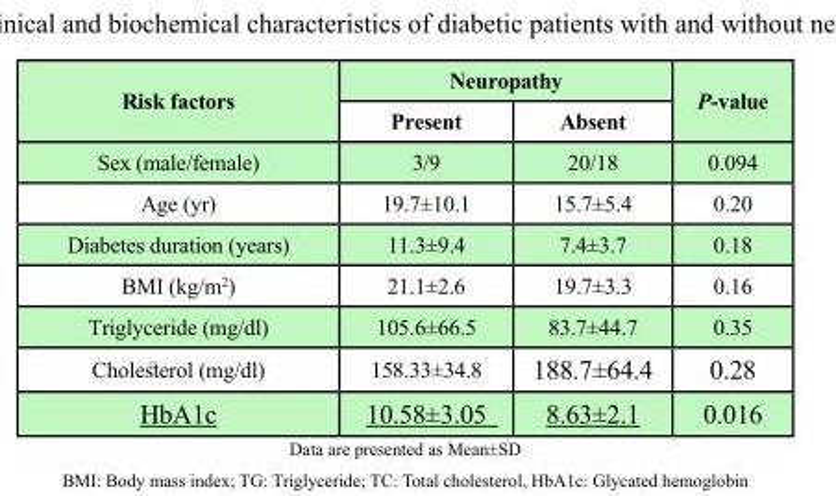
<table><thead><tr><td rowspan="2">Risk factors</td><td colspan="2">Neuropathy</td><td rowspan="2">P-value</td></tr><tr><td>Present</td><td>Absent</td></tr></thead><tbody><tr><td>Sex (male/female)</td><td>3/9</td><td>20/18</td><td>0.094</td></tr><tr><td>Age (yr)</td><td>19.7±10.1</td><td>15.7±5.4</td><td>0.20</td></tr><tr><td>Diabetes duration (years)</td><td>11.3±9.4</td><td>7.4±3.7</td><td>0.18</td></tr><tr><td>BMI (kg/m<sup>2</sup>)</td><td>21.1±2.6</td><td>19.7±3.3</td><td>0.16</td></tr><tr><td>Triglyceride (mg/dl)</td><td>105.6±66.5</td><td>83.7±44.7</td><td>0.35</td></tr><tr><td>Cholesterol (mg/dl)</td><td>158.33±34.8</td><td>188.7±64.4</td><td>0.28</td></tr><tr><td>HbA1c</td><td>10.58±3.05</td><td>8.63±2.1</td><td>0.016</td></tr></tbody></table>